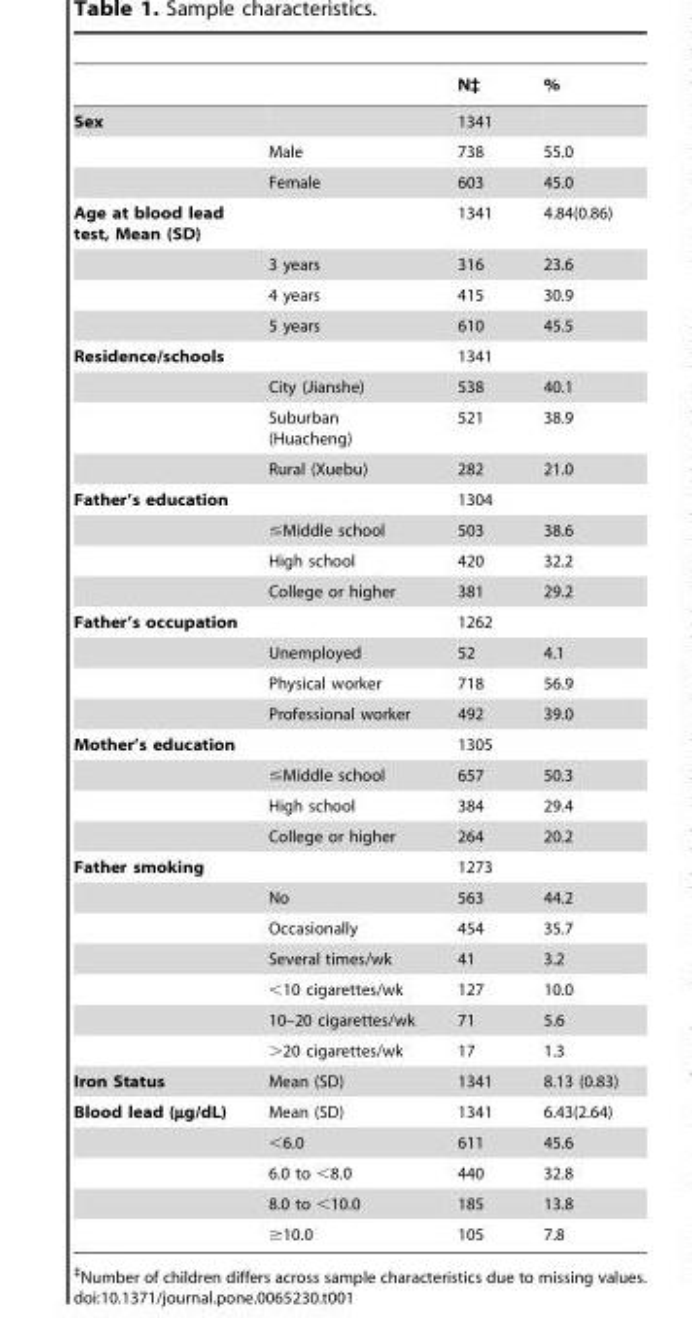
<table><thead><tr><td></td><td></td><td>N‡</td><td>%</td></tr></thead><tbody><tr><td rowspan="3">Sex</td><td></td><td>1341</td><td></td></tr><tr><td>Male</td><td>738</td><td>55.0</td></tr><tr><td>Female</td><td>603</td><td>45.0</td></tr><tr><td rowspan="4">Age at blood lead test, Mean (SD)</td><td></td><td>1341</td><td>4.84(0.86)</td></tr><tr><td>3 years</td><td>316</td><td>23.6</td></tr><tr><td>4 years</td><td>415</td><td>30.9</td></tr><tr><td>5 years</td><td>610</td><td>45.5</td></tr><tr><td rowspan="4">Residence/schools</td><td></td><td>1341</td><td></td></tr><tr><td>City (Jianshe)</td><td>538</td><td>40.1</td></tr><tr><td>Suburban (Huacheng)</td><td>521</td><td>38.9</td></tr><tr><td>Rural (Xuebu)</td><td>282</td><td>21.0</td></tr><tr><td rowspan="4">Father’s education</td><td></td><td>1304</td><td></td></tr><tr><td>≤Middle school</td><td>503</td><td>38.6</td></tr><tr><td>High school</td><td>420</td><td>32.2</td></tr><tr><td>College or higher</td><td>381</td><td>29.2</td></tr><tr><td rowspan="4">Father’s occupation</td><td></td><td>1262</td><td></td></tr><tr><td>Unemployed</td><td>52</td><td>4.1</td></tr><tr><td>Physical worker</td><td>718</td><td>56.9</td></tr><tr><td>Professional worker</td><td>492</td><td>39.0</td></tr><tr><td rowspan="4">Mother’s education</td><td></td><td>1305</td><td></td></tr><tr><td>≤Middle school</td><td>657</td><td>50.3</td></tr><tr><td>High school</td><td>384</td><td>29.4</td></tr><tr><td>College or higher</td><td>264</td><td>20.2</td></tr><tr><td rowspan="7">Father smoking</td><td></td><td>1273</td><td></td></tr><tr><td>No</td><td>563</td><td>44.2</td></tr><tr><td>Occasionally</td><td>454</td><td>35.7</td></tr><tr><td>Several times/wk</td><td>41</td><td>3.2</td></tr><tr><td>&lt;10 cigarettes/wk</td><td>127</td><td>10.0</td></tr><tr><td>10–20 cigarettes/wk</td><td>71</td><td>5.6</td></tr><tr><td>&gt;20 cigarettes/wk</td><td>17</td><td>1.3</td></tr><tr><td>Iron Status</td><td>Mean (SD)</td><td>1341</td><td>8.13 (0.83)</td></tr><tr><td rowspan="5">Blood lead (µg/dL)</td><td>Mean (SD)</td><td>1341</td><td>6.43(2.64)</td></tr><tr><td>&lt;6.0</td><td>611</td><td>45.6</td></tr><tr><td>6.0 to &lt;8.0</td><td>440</td><td>32.8</td></tr><tr><td>8.0 to &lt;10.0</td><td>185</td><td>13.8</td></tr><tr><td>≥10.0</td><td>105</td><td>7.8</td></tr></tbody></table>